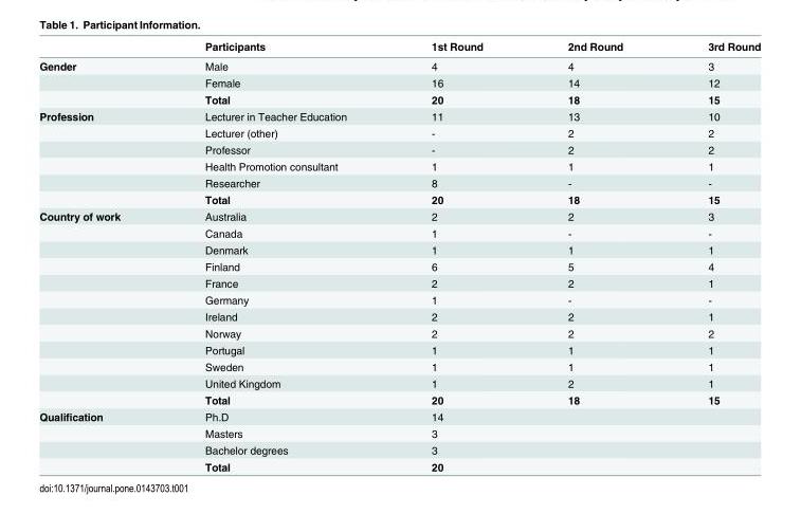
<table><thead><tr><td></td><td>Participants</td><td>1st Round</td><td>2nd Round</td><td>3rd Round</td></tr></thead><tbody><tr><td rowspan="3">Gender</td><td>Male</td><td>4</td><td>4</td><td>3</td></tr><tr><td>Female</td><td>16</td><td>14</td><td>12</td></tr><tr><td>Total</td><td>20</td><td>18</td><td>15</td></tr><tr><td rowspan="6">Profession</td><td>Lecturer in Teacher Education</td><td>11</td><td>13</td><td>10</td></tr><tr><td>Lecturer (other)</td><td>-</td><td>2</td><td>2</td></tr><tr><td>Professor</td><td>-</td><td>2</td><td>2</td></tr><tr><td>Health Promotion consultant</td><td>1</td><td>1</td><td>1</td></tr><tr><td>Researcher</td><td>8</td><td>-</td><td>-</td></tr><tr><td>Total</td><td>20</td><td>18</td><td>15</td></tr><tr><td rowspan="12">Country of work</td><td>Australia</td><td>2</td><td>2</td><td>3</td></tr><tr><td>Canada</td><td>1</td><td>-</td><td>-</td></tr><tr><td>Denmark</td><td>1</td><td>1</td><td>1</td></tr><tr><td>Finland</td><td>6</td><td>5</td><td>4</td></tr><tr><td>France</td><td>2</td><td>2</td><td>1</td></tr><tr><td>Germany</td><td>1</td><td>-</td><td>-</td></tr><tr><td>Ireland</td><td>2</td><td>2</td><td>1</td></tr><tr><td>Norway</td><td>2</td><td>2</td><td>2</td></tr><tr><td>Portugal</td><td>1</td><td>1</td><td>1</td></tr><tr><td>Sweden</td><td>1</td><td>1</td><td>1</td></tr><tr><td>United Kingdom</td><td>1</td><td>2</td><td>1</td></tr><tr><td>Total</td><td>20</td><td>18</td><td>15</td></tr><tr><td rowspan="4">Qualification</td><td>Ph.D</td><td>14</td><td></td><td></td></tr><tr><td>Masters</td><td>3</td><td></td><td></td></tr><tr><td>Bachelor degrees</td><td>3</td><td></td><td></td></tr><tr><td>Total</td><td>20</td><td></td><td></td></tr></tbody></table>